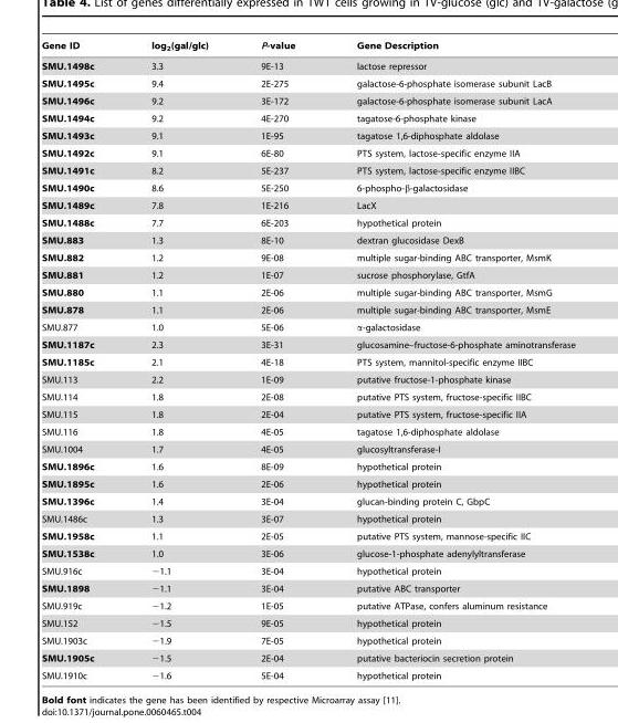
<table><thead><tr><td>Gene ID</td><td>log<sub>2</sub>(gal/glc)</td><td>P-value</td><td>Gene Description</td></tr></thead><tbody><tr><td>SMU.1498c</td><td>3.3</td><td>9E-13</td><td>lactose repressor</td></tr><tr><td>SMU.1495c</td><td>9.4</td><td>2E-275</td><td>galactose-6-phosphate isomerase subunit LacB</td></tr><tr><td>SMU.1496c</td><td>9.2</td><td>3E-172</td><td>galactose-6-phosphate isomerase subunit LacA</td></tr><tr><td>SMU.1494c</td><td>9.2</td><td>4E-270</td><td>tagatose-6-phosphate kinase</td></tr><tr><td>SMU.1493c</td><td>9.1</td><td>1E-95</td><td>tagatose 1,6-diphosphate aldolase</td></tr><tr><td>SMU.1492c</td><td>9.1</td><td>6E-80</td><td>PTS system, lactose-specific enzyme IIA</td></tr><tr><td>SMU.1491c</td><td>8.2</td><td>5E-237</td><td>PTS system, lactose-specific enzyme IIBC</td></tr><tr><td>SMU.1490c</td><td>8.6</td><td>5E-250</td><td>6-phospho-β-galactosidase</td></tr><tr><td>SMU.1489c</td><td>7.8</td><td>1E-216</td><td>LacX</td></tr><tr><td>SMU.1488c</td><td>7.7</td><td>6E-203</td><td>hypothetical protein</td></tr><tr><td>SMU.883</td><td>1.3</td><td>8E-10</td><td>dextran glucosidase DexB</td></tr><tr><td>SMU.882</td><td>1.2</td><td>9E-08</td><td>multiple sugar-binding ABC transporter, MsmK</td></tr><tr><td>SMU.881</td><td>1.2</td><td>1E-07</td><td>sucrose phosphorylase, GtfA</td></tr><tr><td>SMU.880</td><td>1.1</td><td>2E-06</td><td>multiple sugar-binding ABC transporter, MsmG</td></tr><tr><td>SMU.878</td><td>1.1</td><td>2E-06</td><td>multiple sugar-binding ABC transporter, MsmE</td></tr><tr><td>SMU.877</td><td>1.0</td><td>5E-06</td><td>α-galactosidase</td></tr><tr><td>SMU.1187c</td><td>2.3</td><td>3E-31</td><td>glucosamine–fructose-6-phosphate aminotransferase</td></tr><tr><td>SMU.1185c</td><td>2.1</td><td>4E-18</td><td>PTS system, mannitol-specific enzyme IIBC</td></tr><tr><td>SMU.113</td><td>2.2</td><td>1E-09</td><td>putative fructose-1-phosphate kinase</td></tr><tr><td>SMU.114</td><td>1.8</td><td>2E-08</td><td>putative PTS system, fructose-specific IIBC</td></tr><tr><td>SMU.115</td><td>1.8</td><td>2E-04</td><td>putative PTS system, fructose-specific IIA</td></tr><tr><td>SMU.116</td><td>1.8</td><td>4E-05</td><td>tagatose 1,6-diphosphate aldolase</td></tr><tr><td>SMU.1004</td><td>1.7</td><td>4E-05</td><td>glucosyltransferase-I</td></tr><tr><td>SMU.1896c</td><td>1.6</td><td>8E-09</td><td>hypothetical protein</td></tr><tr><td>SMU.1895c</td><td>1.6</td><td>2E-06</td><td>hypothetical protein</td></tr><tr><td>SMU.1396c</td><td>1.4</td><td>3E-04</td><td>glucan-binding protein C, GbpC</td></tr><tr><td>SMU.1486c</td><td>1.3</td><td>3E-07</td><td>hypothetical protein</td></tr><tr><td>SMU.1958c</td><td>1.1</td><td>2E-05</td><td>putative PTS system, mannose-specific IIC</td></tr><tr><td>SMU.1538c</td><td>1.0</td><td>3E-06</td><td>glucose-1-phosphate adenylyltransferase</td></tr><tr><td>SMU.916c</td><td>−1.1</td><td>3E-04</td><td>hypothetical protein</td></tr><tr><td>SMU.1898</td><td>−1.1</td><td>3E-04</td><td>putative ABC transporter</td></tr><tr><td>SMU.919c</td><td>−1.2</td><td>1E-05</td><td>putative ATPase, confers aluminum resistance</td></tr><tr><td>SMU.152</td><td>−1.5</td><td>9E-05</td><td>hypothetical protein</td></tr><tr><td>SMU.1903c</td><td>−1.9</td><td>7E-05</td><td>hypothetical protein</td></tr><tr><td>SMU.1905c</td><td>−1.5</td><td>2E-04</td><td>putative bacteriocin secretion protein</td></tr><tr><td>SMU.1910c</td><td>−1.6</td><td>5E-04</td><td>hypothetical protein</td></tr></tbody></table>